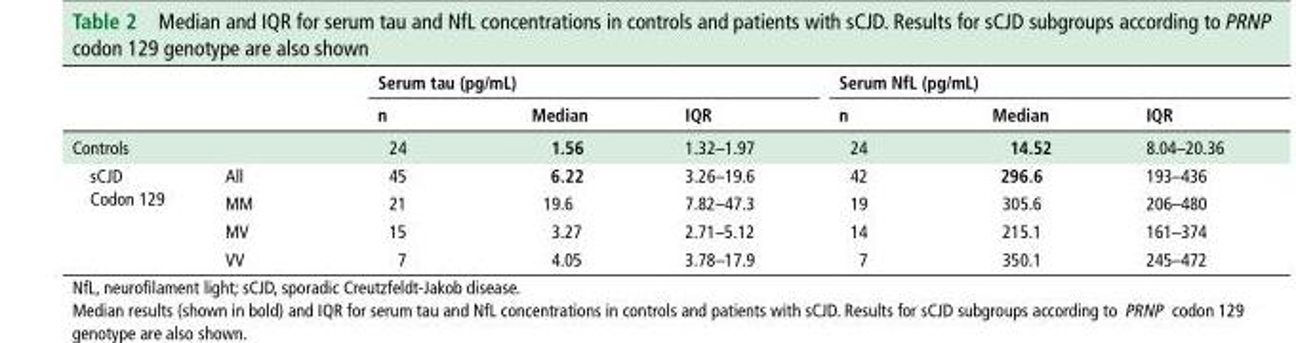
<table><thead><tr><td rowspan="2"></td><td rowspan="2"></td><td colspan="3">serum tau (pg/mL)</td><td colspan="3">serum NfL (pg/mL)</td></tr><tr><td>n</td><td>Median</td><td>IQr</td><td>n</td><td>Median</td><td>IQr</td></tr></thead><tbody><tr><td colspan="2">Controls</td><td>24</td><td>1.56</td><td>1.32–1.97</td><td>24</td><td>14.52</td><td>8.04–20.36</td></tr><tr><td rowspan="4">sCJD Codon 129</td><td>All</td><td>45</td><td>6.22</td><td>3.26–19.6</td><td>42</td><td>296.6</td><td>193–436</td></tr><tr><td>MM</td><td>21</td><td>19.6</td><td>7.82–47.3</td><td>19</td><td>305.6</td><td>206–480</td></tr><tr><td>MV</td><td>15</td><td>3.27</td><td>2.71–5.12</td><td>14</td><td>215.1</td><td>161–374</td></tr><tr><td>VV</td><td>7</td><td>4.05</td><td>3.78–17.9</td><td>7</td><td>350.1</td><td>245–472</td></tr></tbody></table>